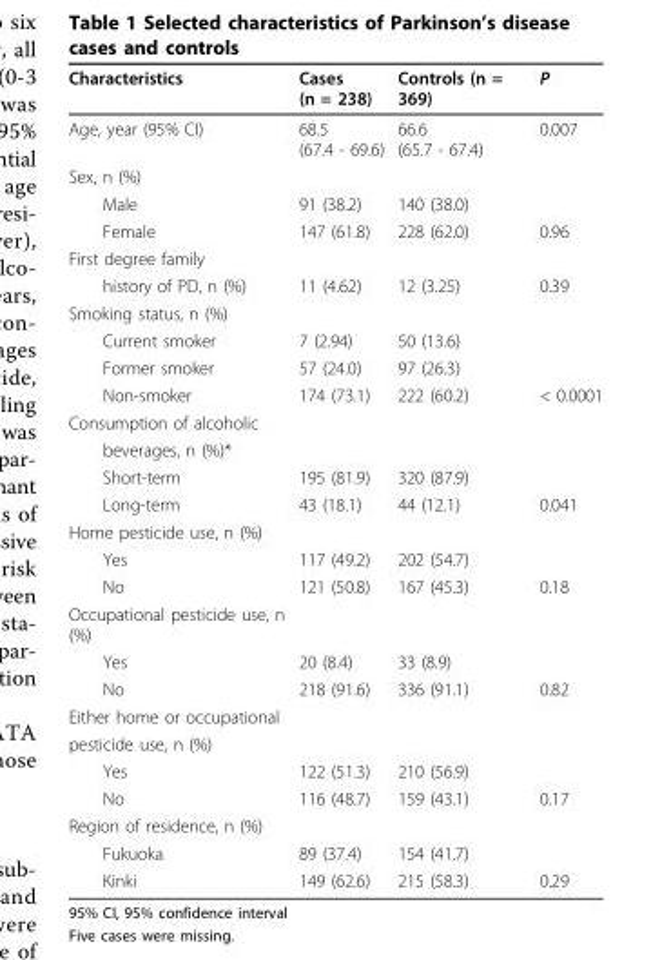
<table><thead><tr><td>Characteristics</td><td>Cases (n = 238)</td><td>Controls (n = 369)</td><td>P</td></tr></thead><tbody><tr><td>Age, year (95% CI)</td><td>68.5 (67.4 - 69.6)</td><td>66.6 (65.7 - 67.4)</td><td>0.007</td></tr><tr><td colspan="4">Sex, n (%)</td></tr><tr><td>Male</td><td>91 (38.2)</td><td>140 (38.0)</td><td></td></tr><tr><td>Female</td><td>147 (61.8)</td><td>228 (62.0)</td><td>0.96</td></tr><tr><td colspan="4">First degree family</td></tr><tr><td>history of PD, n (%)</td><td>11 (4.62)</td><td>12 (3.25)</td><td>0.39</td></tr><tr><td colspan="4">Smoking status, n (%)</td></tr><tr><td>Current smoker</td><td>7 (2.94)</td><td>50 (13.6)</td><td></td></tr><tr><td>Former smoker</td><td>57 (24.0)</td><td>97 (26.3)</td><td></td></tr><tr><td>Non-smoker</td><td>174 (73.1)</td><td>222 (60.2)</td><td>&lt; 0.0001</td></tr><tr><td colspan="4">Consumption of alcoholic</td></tr><tr><td colspan="4">beverages, n (%)*</td></tr><tr><td>Short-term</td><td>195 (81.9)</td><td>320 (87.9)</td><td></td></tr><tr><td>Long-term</td><td>43 (18.1)</td><td>44 (12.1)</td><td>0.041</td></tr><tr><td colspan="4">Home pesticide use, n (%)</td></tr><tr><td>Yes</td><td>117 (49.2)</td><td>202 (54.7)</td><td></td></tr><tr><td>No</td><td>121 (50.8)</td><td>167 (45.3)</td><td>0.18</td></tr><tr><td colspan="4">Occupational pesticide use, n (%)</td></tr><tr><td>Yes</td><td>20 (8.4)</td><td>33 (8.9)</td><td></td></tr><tr><td>No</td><td>218 (91.6)</td><td>336 (91.1)</td><td>0.82</td></tr><tr><td colspan="4">Either home or occupational</td></tr><tr><td colspan="4">pesticide use, n (%)</td></tr><tr><td>Yes</td><td>122 (51.3)</td><td>210 (56.9)</td><td></td></tr><tr><td>No</td><td>116 (48.7)</td><td>159 (43.1)</td><td>0.17</td></tr><tr><td colspan="4">Region of residence, n (%)</td></tr><tr><td>Fukuoka</td><td>89 (37.4)</td><td>154 (41.7)</td><td></td></tr><tr><td>Kinki</td><td>149 (62.6)</td><td>215 (58.3)</td><td>0.29</td></tr></tbody></table>